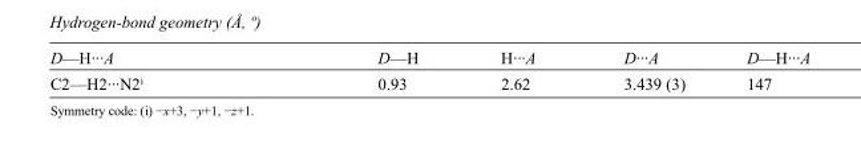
<table><tbody><tr><td>D—H···A</td><td>D—H</td><td>H···A</td><td>D···A</td><td>D—H···A</td></tr><tr><td>C2—H2···N2<sup>i</sup></td><td>0.93</td><td>2.62</td><td>3.439 (3)</td><td>147</td></tr></tbody></table>